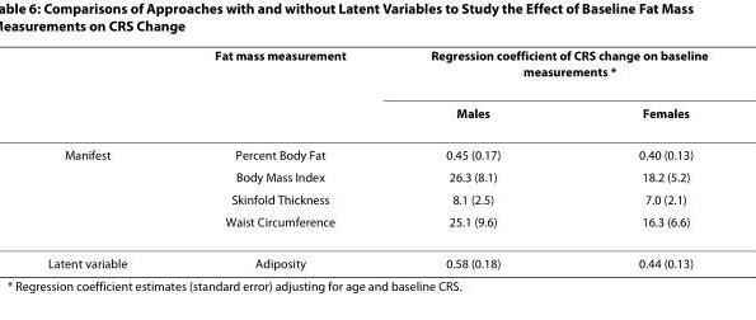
<table><thead><tr><td rowspan="2"></td><td rowspan="2">Fat mass measurement</td><td colspan="2">Regression coefficient of CRS change on baseline measurements *</td></tr><tr><td>Males</td><td>Females</td></tr></thead><tbody><tr><td rowspan="4">Manifest</td><td>Percent Body Fat</td><td>0.45 (0.17)</td><td>0.40 (0.13)</td></tr><tr><td>Body Mass Index</td><td>26.3 (8.1)</td><td>18.2 (5.2)</td></tr><tr><td>Skinfold Thickness</td><td>8.1 (2.5)</td><td>7.0 (2.1)</td></tr><tr><td>Waist Circumference</td><td>25.1 (9.6)</td><td>16.3 (6.6)</td></tr><tr><td>Latent variable</td><td>Adiposity</td><td>0.58 (0.18)</td><td>0.44 (0.13)</td></tr></tbody></table>